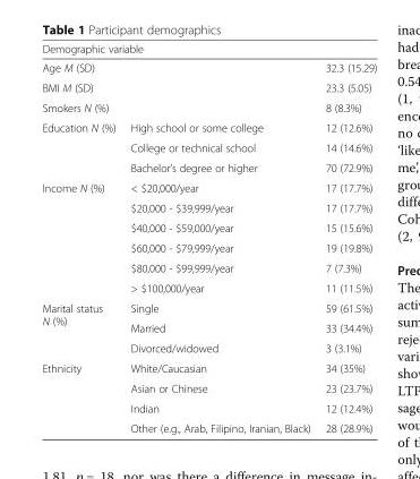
<table><thead><tr><td colspan="3">Demographic variable</td></tr><tr><td>Age M (SD)</td><td></td><td>32.3 (15.29)</td></tr></thead><tbody><tr><td>BMI M (SD)</td><td></td><td>23.3 (5.05)</td></tr><tr><td>Smokers N (%)</td><td></td><td>8 (8.3%)</td></tr><tr><td rowspan="3">Education N (%)</td><td>High school or some college</td><td>12 (12.6%)</td></tr><tr><td>College or technical school</td><td>14 (14.6%)</td></tr><tr><td>Bachelor’s degree or higher</td><td>70 (72.9%)</td></tr><tr><td rowspan="6">Income N (%)</td><td>&lt; $20,000/year</td><td>17 (17.7%)</td></tr><tr><td>$20,000 - $39,999/year</td><td>17 (17.7%)</td></tr><tr><td>$40,000 - $59,000/year</td><td>15 (15.6%)</td></tr><tr><td>$60,000 - $79,999/year</td><td>19 (19.8%)</td></tr><tr><td>$80,000 - $99,999/year</td><td>7 (7.3%)</td></tr><tr><td>&gt; $100,000/year</td><td>11 (11.5%)</td></tr><tr><td rowspan="3">Marital status N (%)</td><td>Single</td><td>59 (61.5%)</td></tr><tr><td>Married</td><td>33 (34.4%)</td></tr><tr><td>Divorced/widowed</td><td>3 (3.1%)</td></tr><tr><td rowspan="4">Ethnicity</td><td>White/Caucasian</td><td>34 (35%)</td></tr><tr><td>Asian or Chinese</td><td>23 (23.7%)</td></tr><tr><td>Indian</td><td>12 (12.4%)</td></tr><tr><td>Other (e.g., Arab, Filipino, Iranian, Black)</td><td>28 (28.9%)</td></tr></tbody></table>